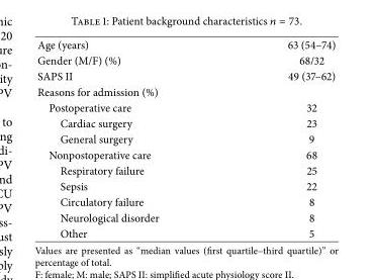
<table><tbody><tr><td>Age (years)</td><td>63 (54–74)</td></tr><tr><td>Gender (M/F) (%)</td><td>68/32</td></tr><tr><td>SAPS II</td><td>49 (37–62)</td></tr><tr><td colspan="2">Reasons for admission (%)</td></tr><tr><td>Postoperative care</td><td>32</td></tr><tr><td>Cardiac surgery</td><td>23</td></tr><tr><td>General surgery</td><td>9</td></tr><tr><td>Nonpostoperative care</td><td>68</td></tr><tr><td>Respiratory failure</td><td>25</td></tr><tr><td>Sepsis</td><td>22</td></tr><tr><td>Circulatory failure</td><td>8</td></tr><tr><td>Neurological disorder</td><td>8</td></tr><tr><td>Other</td><td>5</td></tr></tbody></table>